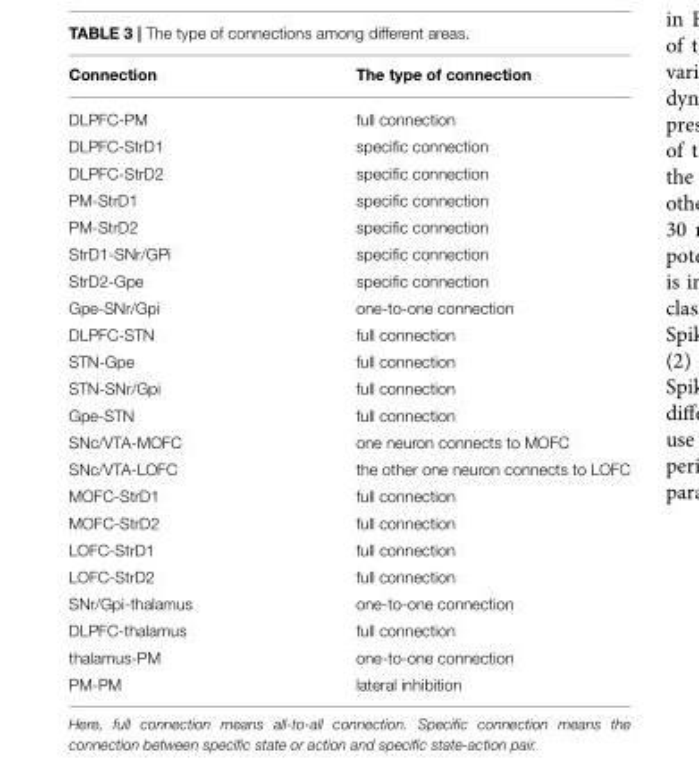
<table><thead><tr><td>Connection</td><td>The type of connection</td></tr></thead><tbody><tr><td>DLPFC-PM</td><td>full connection</td></tr><tr><td>DLPFC-StrD1</td><td>specific connection</td></tr><tr><td>DLPFC-StrD2</td><td>specific connection</td></tr><tr><td>PM-StrD1</td><td>specific connection</td></tr><tr><td>PM-StrD2</td><td>specific connection</td></tr><tr><td>StrD1-SNr/GPi</td><td>specific connection</td></tr><tr><td>StrD2-Gpe</td><td>specific connection</td></tr><tr><td>Gpe-SNr/Gpi</td><td>one-to-one connection</td></tr><tr><td>DLPFC-STN</td><td>full connection</td></tr><tr><td>STN-Gpe</td><td>full connection</td></tr><tr><td>STN-SNr/Gpi</td><td>full connection</td></tr><tr><td>Gpe-STN</td><td>full connection</td></tr><tr><td>SNc/VTA-MOFC</td><td>one neuron connects to MOFC</td></tr><tr><td>SNc/VTA-LOFC</td><td>the other one neuron connects to LOFC</td></tr><tr><td>MOFC-StrD1</td><td>full connection</td></tr><tr><td>MOFC-StrD2</td><td>full connection</td></tr><tr><td>LOFC-StrD1</td><td>full connection</td></tr><tr><td>LOFC-StrD2</td><td>full connection</td></tr><tr><td>SNr/Gpi-thalamus</td><td>one-to-one connection</td></tr><tr><td>DLPFC-thalamus</td><td>full connection</td></tr><tr><td>thalamus-PM</td><td>one-to-one connection</td></tr><tr><td>PM-PM</td><td>lateral inhibition</td></tr></tbody></table>